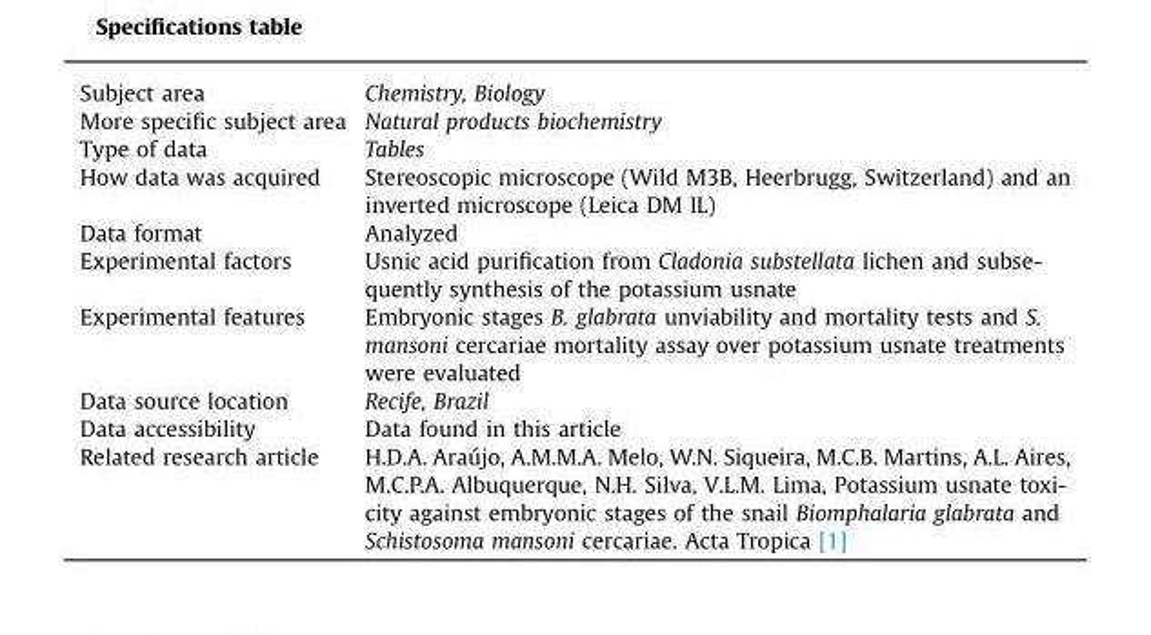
<table><tbody><tr><td>Subject area</td><td>Chemistry, Biology</td></tr><tr><td>More specific subject area</td><td>Natural products biochemistry</td></tr><tr><td>Type of data</td><td>Tables</td></tr><tr><td>How data was acquired</td><td>Stereoscopic microscope (Wild M3B, Heerbrugg, Switzerland) and an inverted microscope (Leica DM IL)</td></tr><tr><td>Data format</td><td>Analyzed</td></tr><tr><td>Experimental factors</td><td>Usnic acid purification from Cladonia substellata lichen and subse- quently synthesis of the potassium usnate</td></tr><tr><td>Experimental features</td><td>Embryonic stages B. glabrata unviability and mortality tests and S. mansoni cercariae mortality assay over potassium usnate treatments were evaluated</td></tr><tr><td>Data source location</td><td>Recife, Brazil</td></tr><tr><td>Data accessibility</td><td>Data found in this article</td></tr><tr><td>Related research article</td><td>H.D.A. Araújo, A.M.M.A. Melo, W.N. Siqueira, M.C.B. Martins, A.L. Aires, M.C.P.A. Albuquerque, N.H. Silva, V.L.M. Lima, Potassium usnate toxi- city against embryonic stages of the snail Biomphalaria glabrata and Schistosoma mansoni cercariae. Acta Tropica [1]</td></tr></tbody></table>